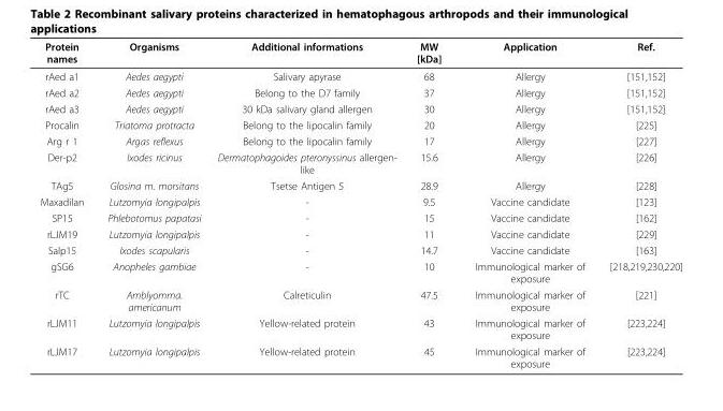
<table><thead><tr><td>Protein names</td><td>Organisms</td><td>Additional informations</td><td>MW [kDa]</td><td>Application</td><td>Ref.</td></tr></thead><tbody><tr><td>rAed a1</td><td>Aedes aegypti</td><td>Salivary apyrase</td><td>68</td><td>Allergy</td><td>[151,152]</td></tr><tr><td>rAed a2</td><td>Aedes aegypti</td><td>Belong to the D7 family</td><td>37</td><td>Allergy</td><td>[151,152]</td></tr><tr><td>rAed a3</td><td>Aedes aegypti</td><td>30 kDa salivary gland allergen</td><td>30</td><td>Allergy</td><td>[151,152]</td></tr><tr><td>Procalin</td><td>Triatoma protracta</td><td>Belong to the lipocalin family</td><td>20</td><td>Allergy</td><td>[225]</td></tr><tr><td>Arg r 1</td><td>Argas reflexus</td><td>Belong to the lipocalin family</td><td>17</td><td>Allergy</td><td>[227]</td></tr><tr><td>Der-p2</td><td>Ixodes ricinus</td><td>Dermatophagoides pteronyssinus allergen- like</td><td>15.6</td><td>Allergy</td><td>[226]</td></tr><tr><td>TAg5</td><td>Glosina m. morsitans</td><td>Tsetse Antigen 5</td><td>28.9</td><td>Allergy</td><td>[228]</td></tr><tr><td>Maxadilan</td><td>Lutzomyia longipalpis</td><td>-</td><td>9.5</td><td>Vaccine candidate</td><td>[123]</td></tr><tr><td>SP15</td><td>Phlebotomus papatasi</td><td>-</td><td>15</td><td>Vaccine candidate</td><td>[162]</td></tr><tr><td>rLJM19</td><td>Lutzomyia longipalpis</td><td>-</td><td>11</td><td>Vaccine candidate</td><td>[229]</td></tr><tr><td>Salp15</td><td>Ixodes scapularis</td><td>-</td><td>14.7</td><td>Vaccine candidate</td><td>[163]</td></tr><tr><td>gSG6</td><td>Anopheles gambiae</td><td>-</td><td>10</td><td>Immunological marker of exposure</td><td>[218,219,230,220]</td></tr><tr><td>rTC</td><td>Amblyomma. americanum</td><td>Calreticulin</td><td>47.5</td><td>Immunological marker of exposure</td><td>[221]</td></tr><tr><td>rLJM11</td><td>Lutzomyia longipalpis</td><td>Yellow-related protein</td><td>43</td><td>Immunological marker of exposure</td><td>[223,224]</td></tr><tr><td>rLJM17</td><td>Lutzomyia longipalpis</td><td>Yellow-related protein</td><td>45</td><td>Immunological marker of exposure</td><td>[223,224]</td></tr></tbody></table>